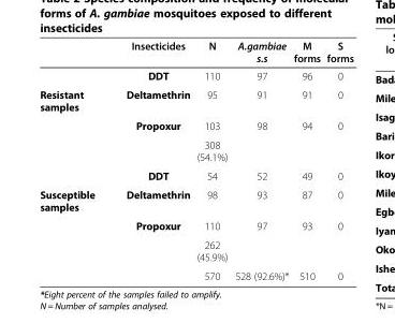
<table><thead><tr><td></td><td>Insecticides</td><td>N</td><td>A.gambiae s.s</td><td>M forms</td><td>S forms</td></tr></thead><tbody><tr><td></td><td>DDT</td><td>110</td><td>97</td><td>96</td><td>0</td></tr><tr><td rowspan="4">Resistant samples</td><td>Deltamethrin</td><td>95</td><td>91</td><td>91</td><td>0</td></tr><tr><td>Propoxur</td><td>103</td><td>98</td><td>94</td><td>0</td></tr><tr><td></td><td>308 (54.1%)</td><td></td><td></td><td></td></tr><tr><td>DDT</td><td>54</td><td>52</td><td>49</td><td>0</td></tr><tr><td rowspan="4">Susceptible samples</td><td>Deltamethrin</td><td>98</td><td>93</td><td>87</td><td>0</td></tr><tr><td>Propoxur</td><td>110</td><td>97</td><td>93</td><td>0</td></tr><tr><td></td><td>262 (45.9%)</td><td></td><td></td><td></td></tr><tr><td></td><td>570</td><td>528 (92.6%)*</td><td>510</td><td>0</td></tr></tbody></table>